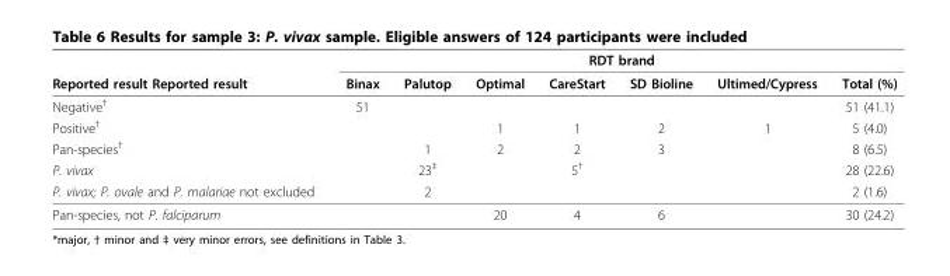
<table><thead><tr><td rowspan="2">Reported result Reported result</td><td colspan="7">RDT brand</td></tr><tr><td>Binax</td><td>Palutop</td><td>Optimal</td><td>CareStart</td><td>SD Bioline</td><td>Ultimed/Cypress</td><td>Total (%)</td></tr></thead><tbody><tr><td>Negative<sup>†</sup></td><td>51</td><td></td><td></td><td></td><td></td><td></td><td>51 (41.1)</td></tr><tr><td>Positive<sup>†</sup></td><td></td><td></td><td>1</td><td>1</td><td>2</td><td>1</td><td>5 (4.0)</td></tr><tr><td>Pan-species<sup>†</sup></td><td></td><td>1</td><td>2</td><td>2</td><td>3</td><td></td><td>8 (6.5)</td></tr><tr><td>P. vivax</td><td></td><td>23<sup>‡</sup></td><td></td><td>5<sup>†</sup></td><td></td><td></td><td>28 (22.6)</td></tr><tr><td>P. vivax; P. ovale and P. malariae not excluded</td><td></td><td>2</td><td></td><td></td><td></td><td></td><td>2 (1.6)</td></tr><tr><td>Pan-species, not P. falciparum</td><td></td><td></td><td>20</td><td>4</td><td>6</td><td></td><td>30 (24.2)</td></tr></tbody></table>